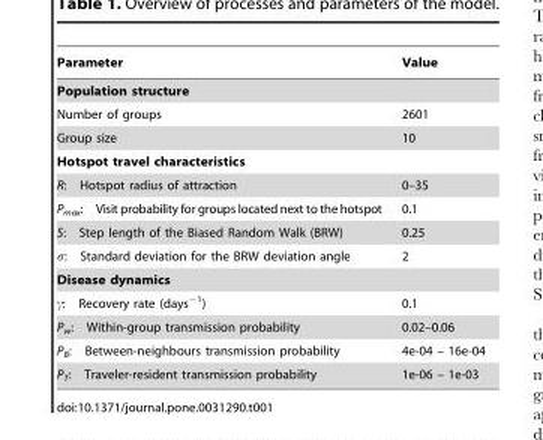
<table><thead><tr><td>Parameter</td><td>Value</td></tr></thead><tbody><tr><td colspan="2">Population structure</td></tr><tr><td>Number of groups</td><td>2601</td></tr><tr><td>Group size</td><td>10</td></tr><tr><td colspan="2">Hotspot travel characteristics</td></tr><tr><td>R: Hotspot radius of attraction</td><td>0–35</td></tr><tr><td>P<sub>max</sub>: Visit probability for groups located next to the hotspot</td><td>0.1</td></tr><tr><td>S: Step length of the Biased Random Walk (BRW)</td><td>0.25</td></tr><tr><td>σ: Standard deviation for the BRW deviation angle</td><td>2</td></tr><tr><td colspan="2">Disease dynamics</td></tr><tr><td>γ: Recovery rate (days<sup>−1</sup>)</td><td>0.1</td></tr><tr><td>P<sub>w</sub>: Within-group transmission probability</td><td>0.02–0.06</td></tr><tr><td>P<sub>B</sub>: Between-neighbours transmission probability</td><td>4e-04 – 16e-04</td></tr><tr><td>P<sub>T</sub>: Traveler-resident transmission probability</td><td>1e-06 – 1e-03</td></tr></tbody></table>